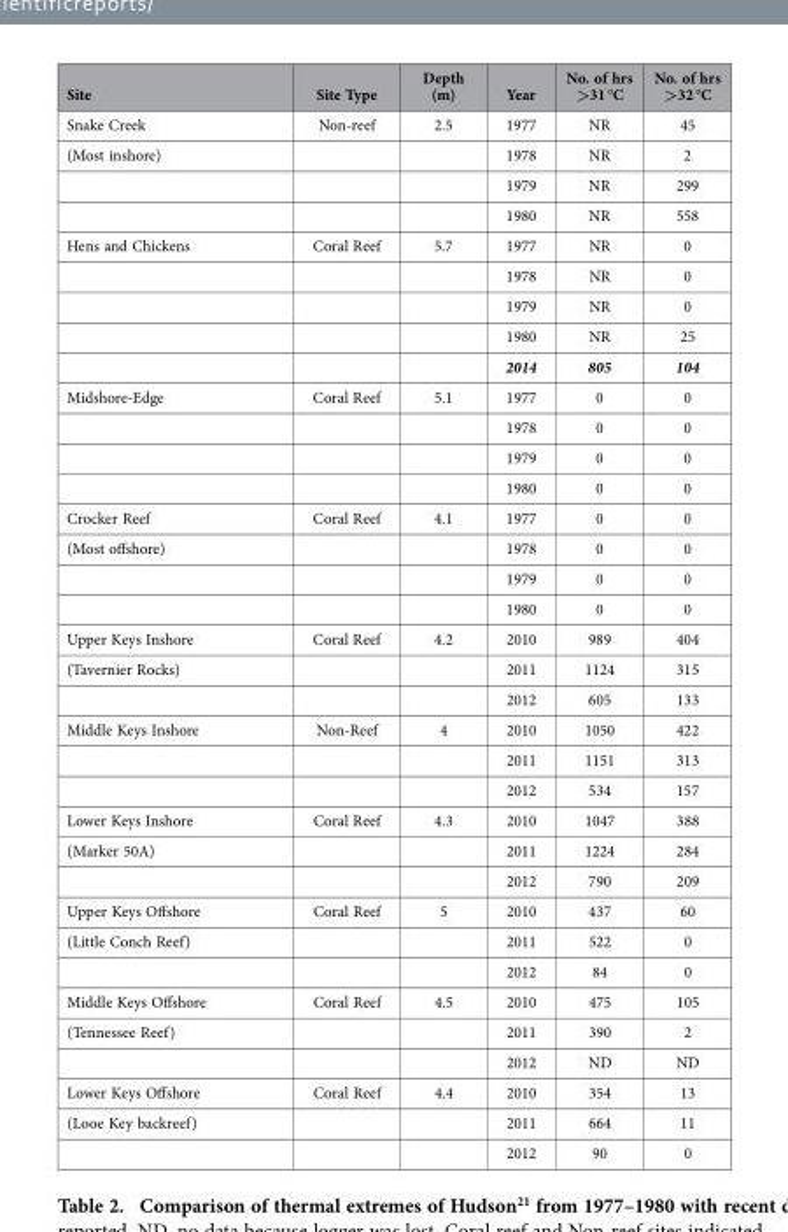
<table><thead><tr><td>Site</td><td>Site Type</td><td>Depth (m)</td><td>Year</td><td>No. of hrs &gt;31 °C</td><td>No. of hrs &gt;32 °C</td></tr></thead><tbody><tr><td>Snake Creek</td><td>Non-reef</td><td>2.5</td><td>1977</td><td>NR</td><td>45</td></tr><tr><td rowspan="3">(Most inshore)</td><td></td><td></td><td>1978</td><td>NR</td><td>2</td></tr><tr><td></td><td></td><td>1979</td><td>NR</td><td>299</td></tr><tr><td></td><td></td><td>1980</td><td>NR</td><td>558</td></tr><tr><td rowspan="5">Hens and Chickens</td><td>Coral Reef</td><td>5.7</td><td>1977</td><td>NR</td><td>0</td></tr><tr><td></td><td></td><td>1978</td><td>NR</td><td>0</td></tr><tr><td></td><td></td><td>1979</td><td>NR</td><td>0</td></tr><tr><td></td><td></td><td>1980</td><td>NR</td><td>25</td></tr><tr><td></td><td></td><td>2014</td><td>805</td><td>104</td></tr><tr><td rowspan="4">Midshore-Edge</td><td>Coral Reef</td><td>5.1</td><td>1977</td><td>0</td><td>0</td></tr><tr><td></td><td></td><td>1978</td><td>0</td><td>0</td></tr><tr><td></td><td></td><td>1979</td><td>0</td><td>0</td></tr><tr><td></td><td></td><td>1980</td><td>0</td><td>0</td></tr><tr><td>Crocker Reef</td><td>Coral Reef</td><td>4.1</td><td>1977</td><td>0</td><td>0</td></tr><tr><td rowspan="3">(Most offshore)</td><td></td><td></td><td>1978</td><td>0</td><td>0</td></tr><tr><td></td><td></td><td>1979</td><td>0</td><td>0</td></tr><tr><td></td><td></td><td>1980</td><td>0</td><td>0</td></tr><tr><td>Upper Keys Inshore</td><td>Coral Reef</td><td>4.2</td><td>2010</td><td>989</td><td>404</td></tr><tr><td rowspan="2">(Tavernier Rocks)</td><td></td><td></td><td>2011</td><td>1124</td><td>315</td></tr><tr><td></td><td></td><td>2012</td><td>605</td><td>133</td></tr><tr><td rowspan="3">Middle Keys Inshore</td><td>Non-Reef</td><td>4</td><td>2010</td><td>1050</td><td>422</td></tr><tr><td></td><td></td><td>2011</td><td>1151</td><td>313</td></tr><tr><td></td><td></td><td>2012</td><td>534</td><td>157</td></tr><tr><td>Lower Keys Inshore</td><td>Coral Reef</td><td>4.3</td><td>2010</td><td>1047</td><td>388</td></tr><tr><td rowspan="2">(Marker 50A)</td><td></td><td></td><td>2011</td><td>1224</td><td>284</td></tr><tr><td></td><td></td><td>2012</td><td>790</td><td>209</td></tr><tr><td>Upper Keys Offshore</td><td>Coral Reef</td><td>5</td><td>2010</td><td>437</td><td>60</td></tr><tr><td rowspan="2">(Little Conch Reef)</td><td></td><td></td><td>2011</td><td>522</td><td>0</td></tr><tr><td></td><td></td><td>2012</td><td>84</td><td>0</td></tr><tr><td>Middle Keys Offshore</td><td>Coral Reef</td><td>4.5</td><td>2010</td><td>475</td><td>105</td></tr><tr><td rowspan="2">(Tennessee Reef)</td><td></td><td></td><td>2011</td><td>390</td><td>2</td></tr><tr><td></td><td></td><td>2012</td><td>ND</td><td>ND</td></tr><tr><td>Lower Keys Offshore</td><td>Coral Reef</td><td>4.4</td><td>2010</td><td>354</td><td>13</td></tr><tr><td rowspan="2">(Looe Key backreef)</td><td></td><td></td><td>2011</td><td>664</td><td>11</td></tr><tr><td></td><td></td><td>2012</td><td>90</td><td>0</td></tr></tbody></table>